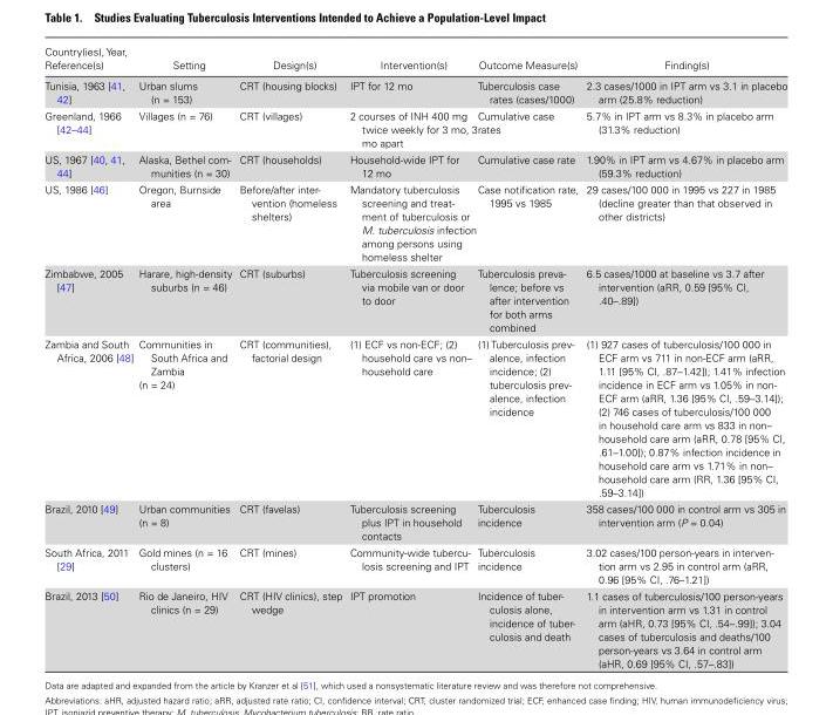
<table><thead><tr><td>Country(ies), Year, Reference(s)</td><td>Setting</td><td>Design(s)</td><td>Intervention(s)</td><td>Outcome Measure(s)</td><td>Finding(s)</td></tr></thead><tbody><tr><td>Tunisia, 1963 [41, 42]</td><td>Urban slums (n = 153)</td><td>CRT (housing blocks)</td><td>IPT for 12 mo</td><td>Tuberculosis case rates (cases/1000)</td><td>2.3 cases/1000 in IPT arm vs 3.1 in placebo arm (25.8% reduction)</td></tr><tr><td>Greenland, 1966 [42–44]</td><td>Villages (n = 76)</td><td>CRT (villages)</td><td>2 courses of INH 400 mg twice weekly for 3 mo, 3 mo apart</td><td>Cumulative case rates</td><td>5.7% in IPT arm vs 8.3% in placebo arm (31.3% reduction)</td></tr><tr><td>US, 1967 [40, 41, 44]</td><td>Alaska, Bethel com- munities (n = 30)</td><td>CRT (households)</td><td>Household-wide IPT for 12 mo</td><td>Cumulative case rate</td><td>1.90% in IPT arm vs 4.67% in placebo arm (59.3% reduction)</td></tr><tr><td>US, 1986 [46]</td><td>Oregon, Burnside area</td><td>Before/after inter- vention (homeless shelters)</td><td>Mandatory tuberculosis screening and treat- ment of tuberculosis or M. tuberculosis infection among persons using homeless shelter</td><td>Case notification rate, 1995 vs 1985</td><td>29 cases/100 000 in 1995 vs 227 in 1985 (decline greater than that observed in other districts)</td></tr><tr><td>Zimbabwe, 2005 [47]</td><td>Harare, high-density suburbs (n = 46)</td><td>CRT (suburbs)</td><td>Tuberculosis screening via mobile van or door to door</td><td>Tuberculosis preva- lence; before vs after intervention for both arms combined</td><td>6.5 cases/1000 at baseline vs 3.7 after intervention (aRR, 0.59 [95% CI, .40–.89])</td></tr><tr><td>Zambia and South Africa, 2006 [48]</td><td>Communities in South Africa and Zambia (n = 24)</td><td>CRT (communities), factorial design</td><td>(1) ECF vs non-ECF; (2) household care vs non– household care</td><td>(1) Tuberculosis prev- alence, infection incidence; (2) tuberculosis prev- alence, infection incidence</td><td>(1) 927 cases of tuberculosis/100 000 in ECF arm vs 711 in non-ECF arm (aRR, 1.11 [95% CI, .87–1.42]); 1.41% infection incidence in ECF arm vs 1.05% in non- ECF arm (aRR, 1.36 [95% CI, .59–3.14]); (2) 746 cases of tuberculosis/100 000 in household care arm vs 833 in non– household care arm (aRR, 0.78 [95% CI, .61–1.00]); 0.87% infection incidence in household care arm vs 1.71% in non– household care arm (RR, 1.36 [95% CI, .59–3.14])</td></tr><tr><td>Brazil, 2010 [49]</td><td>Urban communities (n = 8)</td><td>CRT (favelas)</td><td>Tuberculosis screening plus IPT in household contacts</td><td>Tuberculosis incidence</td><td>358 cases/100 000 in control arm vs 305 in intervention arm (P = 0.04)</td></tr><tr><td>South Africa, 2011 [29]</td><td>Gold mines (n = 16 clusters)</td><td>CRT (mines)</td><td>Community-wide tubercu- losis screening and IPT</td><td>Tuberculosis incidence</td><td>3.02 cases/100 person-years in interven- tion arm vs 2.95 in control arm (aRR, 0.96 [95% CI, .76–1.21])</td></tr><tr><td>Brazil, 2013 [50]</td><td>Rio de Janeiro, HIV clinics (n = 29)</td><td>CRT (HIV clinics), step wedge</td><td>IPT promotion</td><td>Incidence of tuber- culosis alone, incidence of tuber- culosis and death</td><td>1.1 cases of tuberculosis/100 person-years in intervention arm vs 1.31 in control arm (aHR, 0.73 [95% CI, .54–.99]); 3.04 cases of tuberculosis and deaths/100 person-years vs 3.64 in control arm (aHR, 0.69 [95% CI, .57–.83])</td></tr></tbody></table>